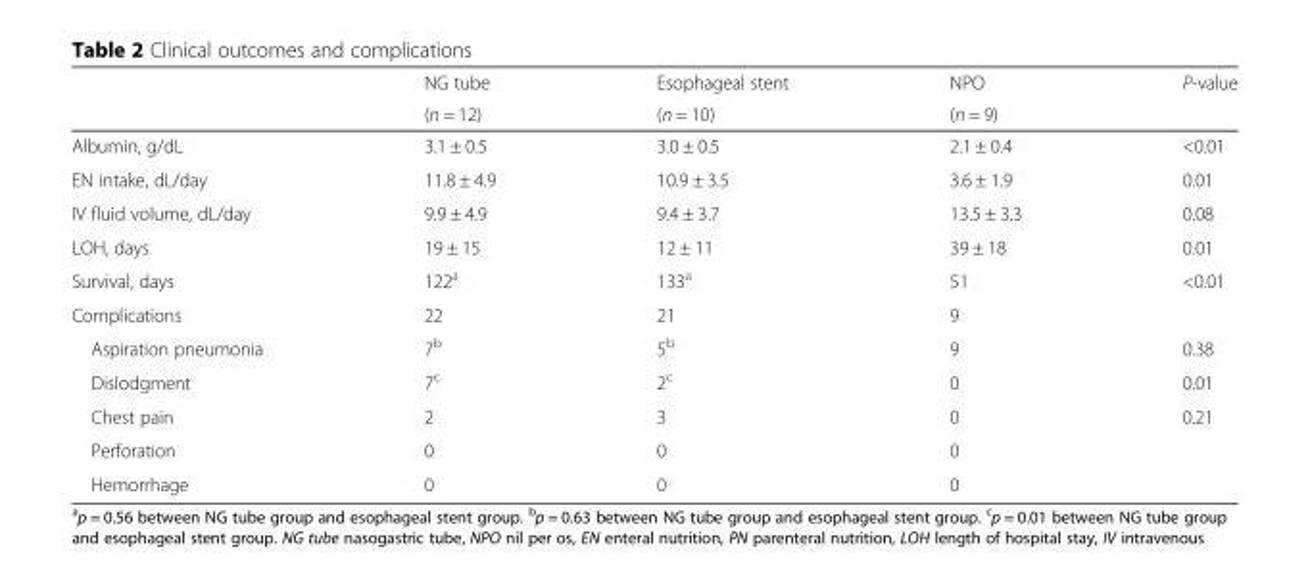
<table><thead><tr><td rowspan="2"></td><td rowspan="2">NG tube (n = 12)</td><td rowspan="2">Esophageal stent (n = 10)</td><td rowspan="2">NPO (n = 9)</td><td rowspan="2">P-value</td></tr><tr></tr></thead><tbody><tr><td>Albumin, g/dL</td><td>3.1 ± 0.5</td><td>3.0 ± 0.5</td><td>2.1 ± 0.4</td><td>&lt;0.01</td></tr><tr><td>EN intake, dL/day</td><td>11.8 ± 4.9</td><td>10.9 ± 3.5</td><td>3.6 ± 1.9</td><td>0.01</td></tr><tr><td>IV fluid volume, dL/day</td><td>9.9 ± 4.9</td><td>9.4 ± 3.7</td><td>13.5 ± 3.3</td><td>0.08</td></tr><tr><td>LOH, days</td><td>19 ± 15</td><td>12 ± 11</td><td>39 ± 18</td><td>0.01</td></tr><tr><td>Survival, days</td><td>122<sup>a</sup></td><td>133<sup>a</sup></td><td>51</td><td>&lt;0.01</td></tr><tr><td>Complications</td><td>22</td><td>21</td><td>9</td><td></td></tr><tr><td>Aspiration pneumonia</td><td>7<sup>b</sup></td><td>5<sup>b</sup></td><td>9</td><td>0.38</td></tr><tr><td>Dislodgment</td><td>7<sup>c</sup></td><td>2<sup>c</sup></td><td>0</td><td>0.01</td></tr><tr><td>Chest pain</td><td>2</td><td>3</td><td>0</td><td>0.21</td></tr><tr><td>Perforation</td><td>0</td><td>0</td><td>0</td><td></td></tr><tr><td>Hemorrhage</td><td>0</td><td>0</td><td>0</td><td></td></tr></tbody></table>